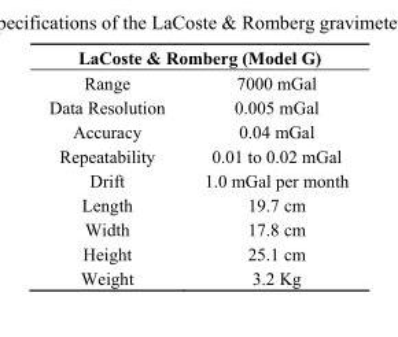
<table><thead><tr><td colspan="2">LaCoste &amp; Romberg (Model G)</td></tr><tr><td>Range</td><td>7000 mGal</td></tr></thead><tbody><tr><td>Data Resolution</td><td>0.005 mGal</td></tr><tr><td>Accuracy</td><td>0.04 mGal</td></tr><tr><td>Repeatability</td><td>0.01 to 0.02 mGal</td></tr><tr><td>Drift</td><td>1.0 mGal per month</td></tr><tr><td>Length</td><td>19.7 cm</td></tr><tr><td>Width</td><td>17.8 cm</td></tr><tr><td>Height</td><td>25.1 cm</td></tr><tr><td>Weight</td><td>3.2 Kg</td></tr></tbody></table>